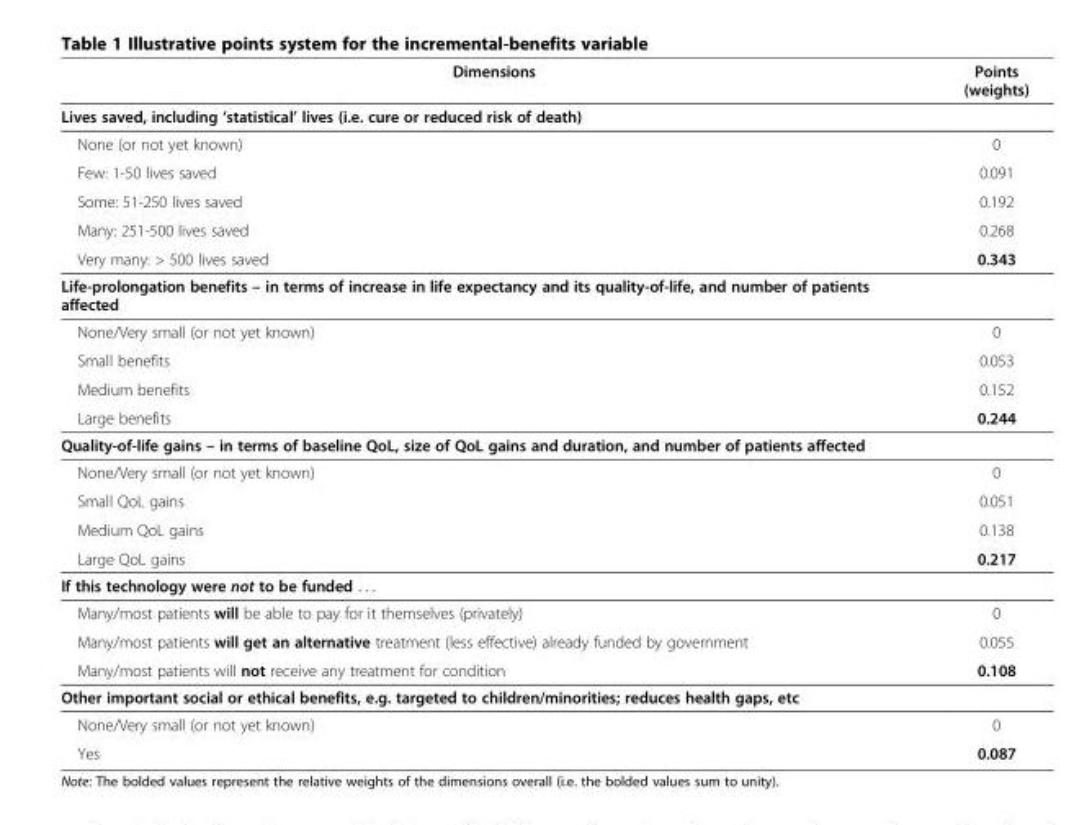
<table><thead><tr><td>Dimensions</td><td>Points (weights)</td></tr></thead><tbody><tr><td colspan="2">Lives saved, including ‘statistical’ lives (i.e. cure or reduced risk of death)</td></tr><tr><td>None (or not yet known)</td><td>0</td></tr><tr><td>Few: 1-50 lives saved</td><td>0.091</td></tr><tr><td>Some: 51-250 lives saved</td><td>0.192</td></tr><tr><td>Many: 251-500 lives saved</td><td>0.268</td></tr><tr><td>Very many: &gt; 500 lives saved</td><td>0.343</td></tr><tr><td colspan="2">Life-prolongation benefits – in terms of increase in life expectancy and its quality-of-life, and number of patients affected</td></tr><tr><td>None/Very small (or not yet known)</td><td>0</td></tr><tr><td>Small benefits</td><td>0.053</td></tr><tr><td>Medium benefits</td><td>0.152</td></tr><tr><td>Large benefits</td><td>0.244</td></tr><tr><td colspan="2">Quality-of-life gains – in terms of baseline QoL, size of QoL gains and duration, and number of patients affected</td></tr><tr><td>None/Very small (or not yet known)</td><td>0</td></tr><tr><td>Small QoL gains</td><td>0.051</td></tr><tr><td>Medium QoL gains</td><td>0.138</td></tr><tr><td>Large QoL gains</td><td>0.217</td></tr><tr><td colspan="2">If this technology were not to be funded . . .</td></tr><tr><td>Many/most patients will be able to pay for it themselves (privately)</td><td>0</td></tr><tr><td>Many/most patients will get an alternative treatment (less effective) already funded by government</td><td>0.055</td></tr><tr><td>Many/most patients will not receive any treatment for condition</td><td>0.108</td></tr><tr><td colspan="2">Other important social or ethical benefits, e.g. targeted to children/minorities; reduces health gaps, etc</td></tr><tr><td>None/Very small (or not yet known)</td><td>0</td></tr><tr><td>Yes</td><td>0.087</td></tr></tbody></table>